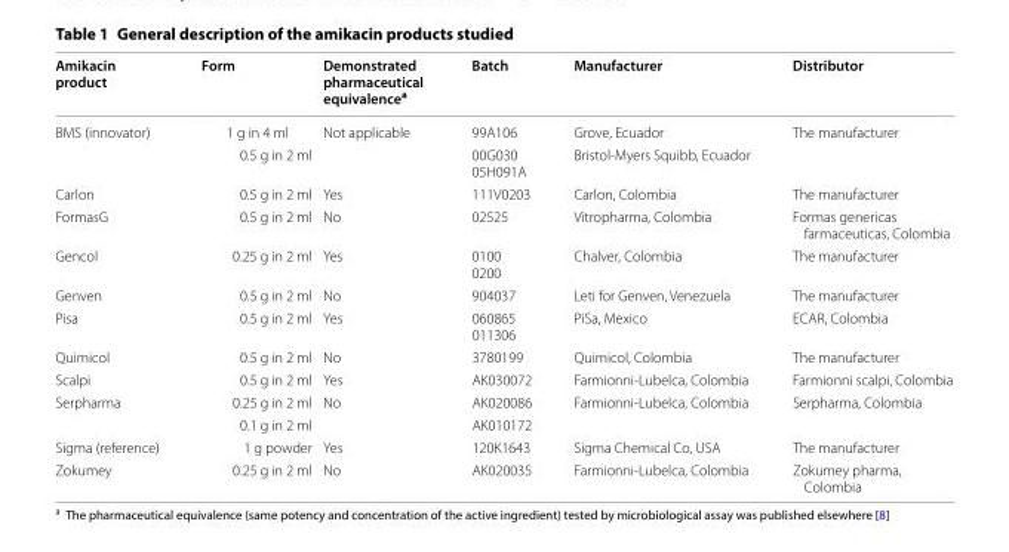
<table><thead><tr><td>Amikacin product</td><td>Form</td><td>Demonstrated pharmaceutical equivalence<sup>a</sup></td><td>Batch</td><td>Manufacturer</td><td>Distributor</td></tr></thead><tbody><tr><td rowspan="2">BMS (innovator)</td><td>1 g in 4 ml</td><td rowspan="2">Not applicable</td><td>99A106</td><td>Grove, Ecuador</td><td rowspan="2">The manufacturer</td></tr><tr><td>0.5 g in 2 ml</td><td>00G030 05H091A</td><td>Bristol-Myers Squibb, Ecuador</td></tr><tr><td>Carlon</td><td>0.5 g in 2 ml</td><td>Yes</td><td>111V0203</td><td>Carlon, Colombia</td><td>The manufacturer</td></tr><tr><td>FormasG</td><td>0.5 g in 2 ml</td><td>No</td><td>02525</td><td>Vitropharma, Colombia</td><td>Formas genericas farmaceuticas, Colombia</td></tr><tr><td>Gencol</td><td>0.25 g in 2 ml</td><td>Yes</td><td>0100 0200</td><td>Chalver, Colombia</td><td>The manufacturer</td></tr><tr><td>Genven</td><td>0.5 g in 2 ml</td><td>No</td><td>904037</td><td>Leti for Genven, Venezuela</td><td>The manufacturer</td></tr><tr><td>Pisa</td><td>0.5 g in 2 ml</td><td>Yes</td><td>060865 011306</td><td>PiSa, Mexico</td><td>ECAR, Colombia</td></tr><tr><td>Quimicol</td><td>0.5 g in 2 ml</td><td>No</td><td>3780199</td><td>Quimicol, Colombia</td><td>The manufacturer</td></tr><tr><td>Scalpi</td><td>0.5 g in 2 ml</td><td>Yes</td><td>AK030072</td><td>Farmionni-Lubelca, Colombia</td><td>Farmionni scalpi, Colombia</td></tr><tr><td rowspan="2">Serpharma</td><td>0.25 g in 2 ml</td><td rowspan="2">No</td><td>AK020086</td><td rowspan="2">Farmionni-Lubelca, Colombia</td><td rowspan="2">Serpharma, Colombia</td></tr><tr><td>0.1 g in 2 ml</td><td>AK010172</td></tr><tr><td>Sigma (reference)</td><td>1 g powder</td><td>Yes</td><td>120K1643</td><td>Sigma Chemical Co, USA</td><td>The manufacturer</td></tr><tr><td>Zokumey</td><td>0.25 g in 2 ml</td><td>No</td><td>AK020035</td><td>Farmionni-Lubelca, Colombia</td><td>Zokumey pharma, Colombia</td></tr></tbody></table>